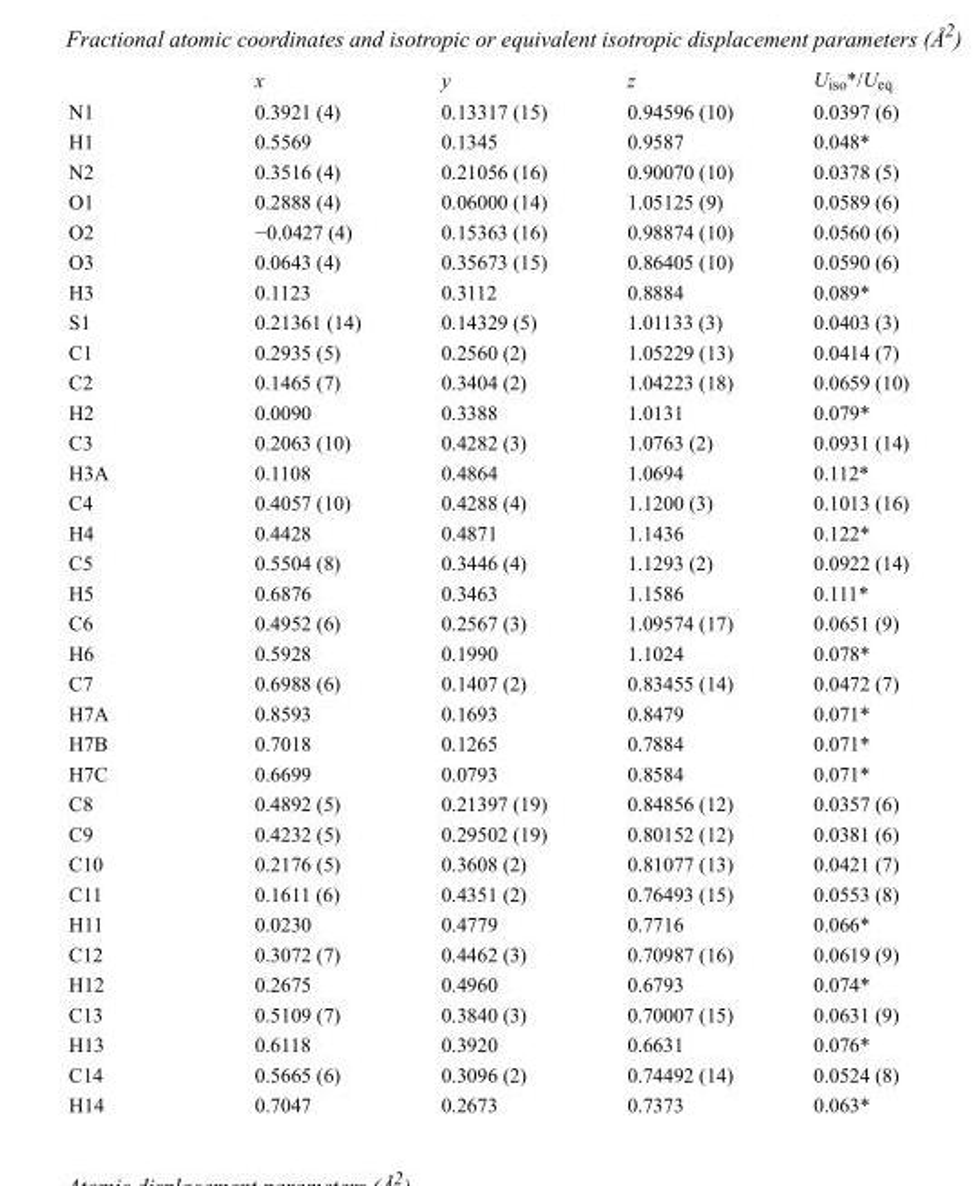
<table><thead><tr><td></td><td>x</td><td>y</td><td>z</td><td>U<sub>iso</sub>*/U<sub>eq</sub></td></tr></thead><tbody><tr><td>N1</td><td>0.3921 (4)</td><td>0.13317 (15)</td><td>0.94596 (10)</td><td>0.0397 (6)</td></tr><tr><td>H1</td><td>0.5569</td><td>0.1345</td><td>0.9587</td><td>0.048*</td></tr><tr><td>N2</td><td>0.3516 (4)</td><td>0.21056 (16)</td><td>0.90070 (10)</td><td>0.0378 (5)</td></tr><tr><td>O1</td><td>0.2888 (4)</td><td>0.06000 (14)</td><td>1.05125 (9)</td><td>0.0589 (6)</td></tr><tr><td>O2</td><td>−0.0427 (4)</td><td>0.15363 (16)</td><td>0.98874 (10)</td><td>0.0560 (6)</td></tr><tr><td>O3</td><td>0.0643 (4)</td><td>0.35673 (15)</td><td>0.86405 (10)</td><td>0.0590 (6)</td></tr><tr><td>H3</td><td>0.1123</td><td>0.3112</td><td>0.8884</td><td>0.089*</td></tr><tr><td>S1</td><td>0.21361 (14)</td><td>0.14329 (5)</td><td>1.01133 (3)</td><td>0.0403 (3)</td></tr><tr><td>C1</td><td>0.2935 (5)</td><td>0.2560 (2)</td><td>1.05229 (13)</td><td>0.0414 (7)</td></tr><tr><td>C2</td><td>0.1465 (7)</td><td>0.3404 (2)</td><td>1.04223 (18)</td><td>0.0659 (10)</td></tr><tr><td>H2</td><td>0.0090</td><td>0.3388</td><td>1.0131</td><td>0.079*</td></tr><tr><td>C3</td><td>0.2063 (10)</td><td>0.4282 (3)</td><td>1.0763 (2)</td><td>0.0931 (14)</td></tr><tr><td>H3A</td><td>0.1108</td><td>0.4864</td><td>1.0694</td><td>0.112*</td></tr><tr><td>C4</td><td>0.4057 (10)</td><td>0.4288 (4)</td><td>1.1200 (3)</td><td>0.1013 (16)</td></tr><tr><td>H4</td><td>0.4428</td><td>0.4871</td><td>1.1436</td><td>0.122*</td></tr><tr><td>C5</td><td>0.5504 (8)</td><td>0.3446 (4)</td><td>1.1293 (2)</td><td>0.0922 (14)</td></tr><tr><td>H5</td><td>0.6876</td><td>0.3463</td><td>1.1586</td><td>0.111*</td></tr><tr><td>C6</td><td>0.4952 (6)</td><td>0.2567 (3)</td><td>1.09574 (17)</td><td>0.0651 (9)</td></tr><tr><td>H6</td><td>0.5928</td><td>0.1990</td><td>1.1024</td><td>0.078*</td></tr><tr><td>C7</td><td>0.6988 (6)</td><td>0.1407 (2)</td><td>0.83455 (14)</td><td>0.0472 (7)</td></tr><tr><td>H7A</td><td>0.8593</td><td>0.1693</td><td>0.8479</td><td>0.071*</td></tr><tr><td>H7B</td><td>0.7018</td><td>0.1265</td><td>0.7884</td><td>0.071*</td></tr><tr><td>H7C</td><td>0.6699</td><td>0.0793</td><td>0.8584</td><td>0.071*</td></tr><tr><td>C8</td><td>0.4892 (5)</td><td>0.21397 (19)</td><td>0.84856 (12)</td><td>0.0357 (6)</td></tr><tr><td>C9</td><td>0.4232 (5)</td><td>0.29502 (19)</td><td>0.80152 (12)</td><td>0.0381 (6)</td></tr><tr><td>C10</td><td>0.2176 (5)</td><td>0.3608 (2)</td><td>0.81077 (13)</td><td>0.0421 (7)</td></tr><tr><td>C11</td><td>0.1611 (6)</td><td>0.4351 (2)</td><td>0.76493 (15)</td><td>0.0553 (8)</td></tr><tr><td>H11</td><td>0.0230</td><td>0.4779</td><td>0.7716</td><td>0.066*</td></tr><tr><td>C12</td><td>0.3072 (7)</td><td>0.4462 (3)</td><td>0.70987 (16)</td><td>0.0619 (9)</td></tr><tr><td>H12</td><td>0.2675</td><td>0.4960</td><td>0.6793</td><td>0.074*</td></tr><tr><td>C13</td><td>0.5109 (7)</td><td>0.3840 (3)</td><td>0.70007 (15)</td><td>0.0631 (9)</td></tr><tr><td>H13</td><td>0.6118</td><td>0.3920</td><td>0.6631</td><td>0.076*</td></tr><tr><td>C14</td><td>0.5665 (6)</td><td>0.3096 (2)</td><td>0.74492 (14)</td><td>0.0524 (8)</td></tr><tr><td>H14</td><td>0.7047</td><td>0.2673</td><td>0.7373</td><td>0.063*</td></tr></tbody></table>